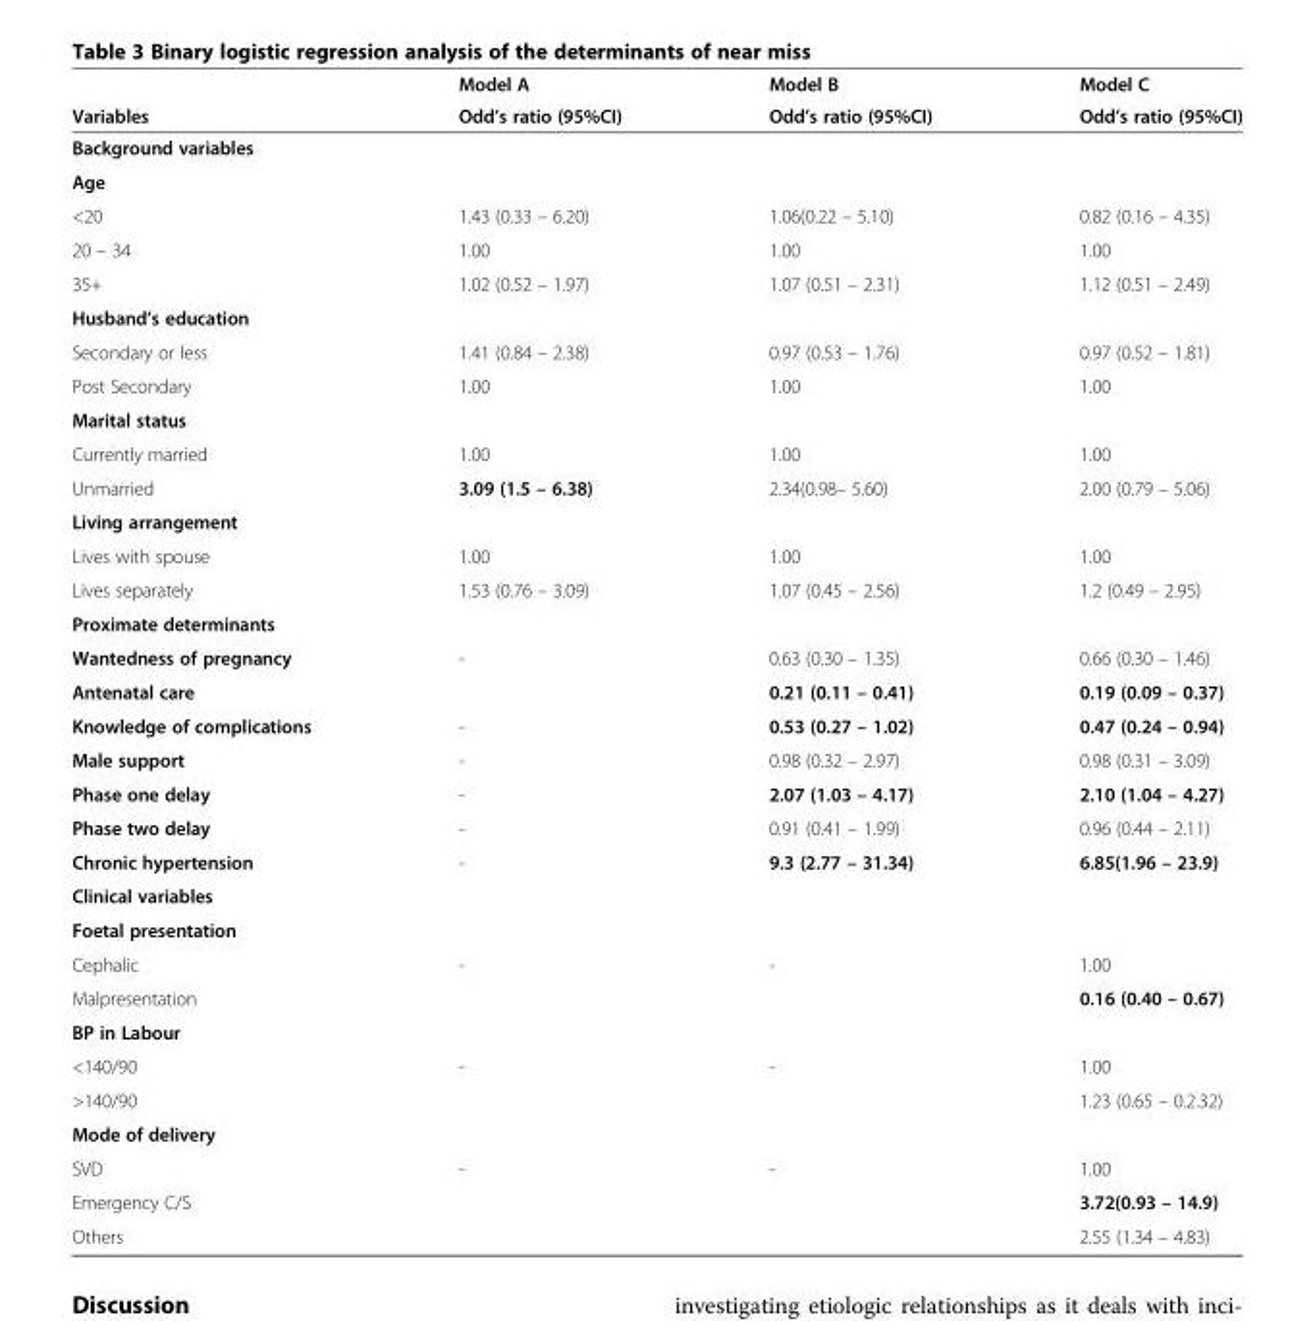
<table><thead><tr><td rowspan="2">Variables</td><td rowspan="2">Model A Odd’s ratio (95%CI)</td><td rowspan="2">Model B Odd’s ratio (95%CI)</td><td rowspan="2">Model C Odd’s ratio (95%CI)</td></tr><tr></tr></thead><tbody><tr><td colspan="4">Background variables</td></tr><tr><td colspan="4">Age</td></tr><tr><td>&lt;20</td><td>1.43 (0.33 – 6.20)</td><td>1.06(0.22 – 5.10)</td><td>0.82 (0.16 – 4.35)</td></tr><tr><td>20 – 34</td><td>1.00</td><td>1.00</td><td>1.00</td></tr><tr><td>35+</td><td>1.02 (0.52 – 1.97)</td><td>1.07 (0.51 – 2.31)</td><td>1.12 (0.51 – 2.49)</td></tr><tr><td colspan="4">Husband’s education</td></tr><tr><td>Secondary or less</td><td>1.41 (0.84 – 2.38)</td><td>0.97 (0.53 – 1.76)</td><td>0.97 (0.52 – 1.81)</td></tr><tr><td>Post Secondary</td><td>1.00</td><td>1.00</td><td>1.00</td></tr><tr><td colspan="4">Marital status</td></tr><tr><td>Currently married</td><td>1.00</td><td>1.00</td><td>1.00</td></tr><tr><td>Unmarried</td><td>3.09 (1.5 – 6.38)</td><td>2.34(0.98– 5.60)</td><td>2.00 (0.79 – 5.06)</td></tr><tr><td colspan="4">Living arrangement</td></tr><tr><td>Lives with spouse</td><td>1.00</td><td>1.00</td><td>1.00</td></tr><tr><td>Lives separately</td><td>1.53 (0.76 – 3.09)</td><td>1.07 (0.45 – 2.56)</td><td>1.2 (0.49 – 2.95)</td></tr><tr><td colspan="4">Proximate determinants</td></tr><tr><td>Wantedness of pregnancy</td><td>-</td><td>0.63 (0.30 – 1.35)</td><td>0.66 (0.30 – 1.46)</td></tr><tr><td>Antenatal care</td><td></td><td>0.21 (0.11 – 0.41)</td><td>0.19 (0.09 – 0.37)</td></tr><tr><td>Knowledge of complications</td><td>-</td><td>0.53 (0.27 – 1.02)</td><td>0.47 (0.24 – 0.94)</td></tr><tr><td>Male support</td><td>-</td><td>0.98 (0.32 – 2.97)</td><td>0.98 (0.31 – 3.09)</td></tr><tr><td>Phase one delay</td><td>-</td><td>2.07 (1.03 – 4.17)</td><td>2.10 (1.04 – 4.27)</td></tr><tr><td>Phase two delay</td><td>-</td><td>0.91 (0.41 – 1.99)</td><td>0.96 (0.44 – 2.11)</td></tr><tr><td>Chronic hypertension</td><td>-</td><td>9.3 (2.77 – 31.34)</td><td>6.85(1.96 – 23.9)</td></tr><tr><td colspan="4">Clinical variables</td></tr><tr><td colspan="4">Foetal presentation</td></tr><tr><td>Cephalic</td><td>-</td><td>-</td><td>1.00</td></tr><tr><td>Malpresentation</td><td></td><td></td><td>0.16 (0.40 – 0.67)</td></tr><tr><td colspan="4">BP in Labour</td></tr><tr><td>&lt;140/90</td><td>-</td><td>-</td><td>1.00</td></tr><tr><td>&gt;140/90</td><td></td><td></td><td>1.23 (0.65 – 0.2.32)</td></tr><tr><td colspan="4">Mode of delivery</td></tr><tr><td>SVD</td><td>-</td><td>-</td><td>1.00</td></tr><tr><td>Emergency C/S</td><td></td><td></td><td>3.72(0.93 – 14.9)</td></tr><tr><td>Others</td><td></td><td></td><td>2.55 (1.34 – 4.83)</td></tr></tbody></table>